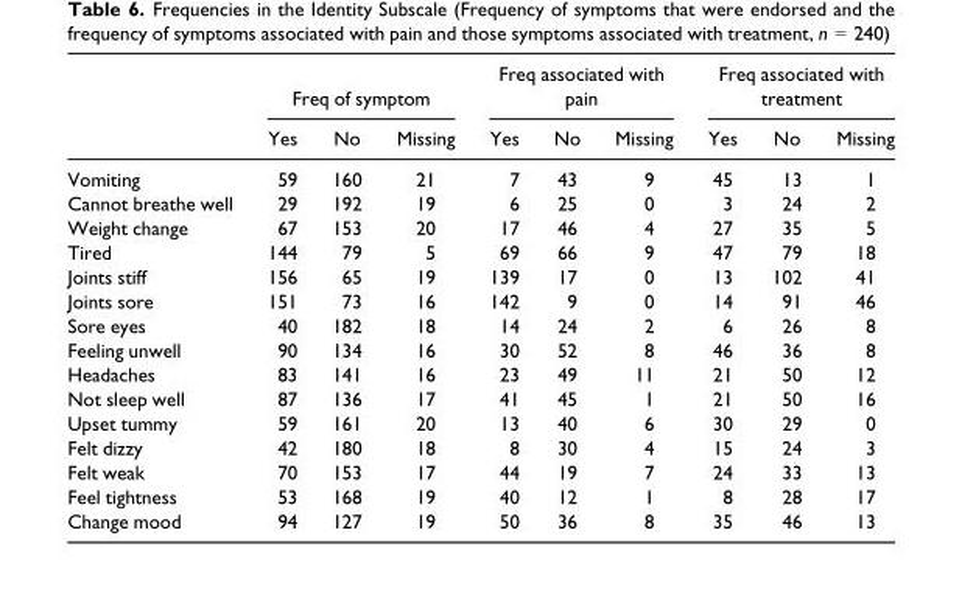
<table><thead><tr><td rowspan="2"></td><td colspan="3">Freq of symptom</td><td colspan="3">Freq associated with pain</td><td colspan="3">Freq associated with treatment</td></tr><tr><td>Yes</td><td>No</td><td>Missing</td><td>Yes</td><td>No</td><td>Missing</td><td>Yes</td><td>No</td><td>Missing</td></tr></thead><tbody><tr><td>Vomiting</td><td>59</td><td>160</td><td>21</td><td>7</td><td>43</td><td>9</td><td>45</td><td>13</td><td>1</td></tr><tr><td>Cannot breathe well</td><td>29</td><td>192</td><td>19</td><td>6</td><td>25</td><td>0</td><td>3</td><td>24</td><td>2</td></tr><tr><td>Weight change</td><td>67</td><td>153</td><td>20</td><td>17</td><td>46</td><td>4</td><td>27</td><td>35</td><td>5</td></tr><tr><td>Tired</td><td>144</td><td>79</td><td>5</td><td>69</td><td>66</td><td>9</td><td>47</td><td>79</td><td>18</td></tr><tr><td>Joints stiff</td><td>156</td><td>65</td><td>19</td><td>139</td><td>17</td><td>0</td><td>13</td><td>102</td><td>41</td></tr><tr><td>Joints sore</td><td>151</td><td>73</td><td>16</td><td>142</td><td>9</td><td>0</td><td>14</td><td>91</td><td>46</td></tr><tr><td>Sore eyes</td><td>40</td><td>182</td><td>18</td><td>14</td><td>24</td><td>2</td><td>6</td><td>26</td><td>8</td></tr><tr><td>Feeling unwell</td><td>90</td><td>134</td><td>16</td><td>30</td><td>52</td><td>8</td><td>46</td><td>36</td><td>8</td></tr><tr><td>Headaches</td><td>83</td><td>141</td><td>16</td><td>23</td><td>49</td><td>11</td><td>21</td><td>50</td><td>12</td></tr><tr><td>Not sleep well</td><td>87</td><td>136</td><td>17</td><td>41</td><td>45</td><td>1</td><td>21</td><td>50</td><td>16</td></tr><tr><td>Upset tummy</td><td>59</td><td>161</td><td>20</td><td>13</td><td>40</td><td>6</td><td>30</td><td>29</td><td>0</td></tr><tr><td>Felt dizzy</td><td>42</td><td>180</td><td>18</td><td>8</td><td>30</td><td>4</td><td>15</td><td>24</td><td>3</td></tr><tr><td>Felt weak</td><td>70</td><td>153</td><td>17</td><td>44</td><td>19</td><td>7</td><td>24</td><td>33</td><td>13</td></tr><tr><td>Feel tightness</td><td>53</td><td>168</td><td>19</td><td>40</td><td>12</td><td>1</td><td>8</td><td>28</td><td>17</td></tr><tr><td>Change mood</td><td>94</td><td>127</td><td>19</td><td>50</td><td>36</td><td>8</td><td>35</td><td>46</td><td>13</td></tr></tbody></table>